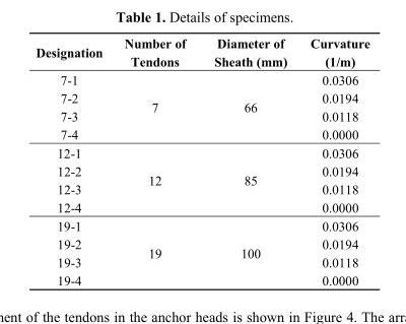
<table><thead><tr><td>Designation</td><td>Number of Tendons</td><td>Diameter of Sheath (mm)</td><td>Curvature (1/m)</td></tr></thead><tbody><tr><td>7-1</td><td rowspan="4">7</td><td rowspan="4">66</td><td>0.0306</td></tr><tr><td>7-2</td><td>0.0194</td></tr><tr><td>7-3</td><td>0.0118</td></tr><tr><td>7-4</td><td>0.0000</td></tr><tr><td>12-1</td><td rowspan="4">12</td><td rowspan="4">85</td><td>0.0306</td></tr><tr><td>12-2</td><td>0.0194</td></tr><tr><td>12-3</td><td>0.0118</td></tr><tr><td>12-4</td><td>0.0000</td></tr><tr><td>19-1</td><td rowspan="4">19</td><td rowspan="4">100</td><td>0.0306</td></tr><tr><td>19-2</td><td>0.0194</td></tr><tr><td>19-3</td><td>0.0118</td></tr><tr><td>19-4</td><td>0.0000</td></tr></tbody></table>